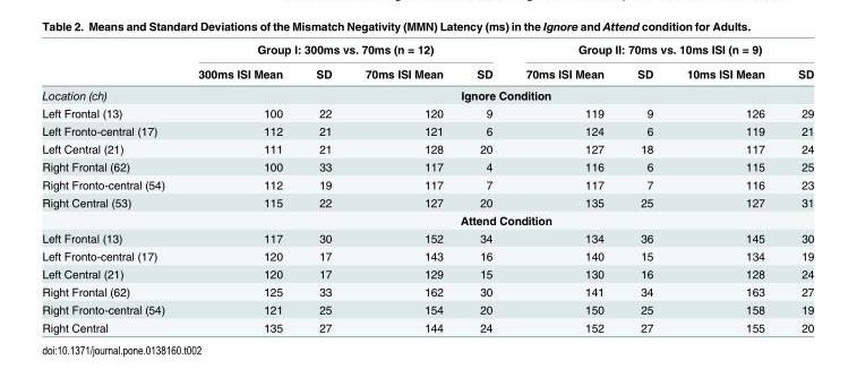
<table><thead><tr><td rowspan="2"></td><td colspan="4">Group I: 300ms vs. 70ms (n = 12)</td><td colspan="4">Group II: 70ms vs. 10ms ISI (n = 9)</td></tr><tr><td>300ms ISI Mean</td><td>SD</td><td>70ms ISI Mean</td><td>SD</td><td>70ms ISI Mean</td><td>SD</td><td>10ms ISI Mean</td><td>SD</td></tr></thead><tbody><tr><td>Location (ch)</td><td colspan="8">Ignore Condition</td></tr><tr><td>Left Frontal (13)</td><td>100</td><td>22</td><td>120</td><td>9</td><td>119</td><td>9</td><td>126</td><td>29</td></tr><tr><td>Left Fronto-central (17)</td><td>112</td><td>21</td><td>121</td><td>6</td><td>124</td><td>6</td><td>119</td><td>21</td></tr><tr><td>Left Central (21)</td><td>111</td><td>21</td><td>128</td><td>20</td><td>127</td><td>18</td><td>117</td><td>24</td></tr><tr><td>Right Frontal (62)</td><td>100</td><td>33</td><td>117</td><td>4</td><td>116</td><td>6</td><td>115</td><td>25</td></tr><tr><td>Right Fronto-central (54)</td><td>112</td><td>19</td><td>117</td><td>7</td><td>117</td><td>7</td><td>116</td><td>23</td></tr><tr><td rowspan="2">Right Central (53)</td><td>115</td><td>22</td><td>127</td><td>20</td><td>135</td><td>25</td><td>127</td><td>31</td></tr><tr><td colspan="8">Attend Condition</td></tr><tr><td>Left Frontal (13)</td><td>117</td><td>30</td><td>152</td><td>34</td><td>134</td><td>36</td><td>145</td><td>30</td></tr><tr><td>Left Fronto-central (17)</td><td>120</td><td>17</td><td>143</td><td>16</td><td>140</td><td>15</td><td>134</td><td>19</td></tr><tr><td>Left Central (21)</td><td>120</td><td>17</td><td>129</td><td>15</td><td>130</td><td>16</td><td>128</td><td>24</td></tr><tr><td>Right Frontal (62)</td><td>125</td><td>33</td><td>162</td><td>30</td><td>141</td><td>34</td><td>163</td><td>27</td></tr><tr><td>Right Fronto-central (54)</td><td>121</td><td>25</td><td>154</td><td>20</td><td>150</td><td>25</td><td>158</td><td>19</td></tr><tr><td>Right Central</td><td>135</td><td>27</td><td>144</td><td>24</td><td>152</td><td>27</td><td>155</td><td>20</td></tr></tbody></table>